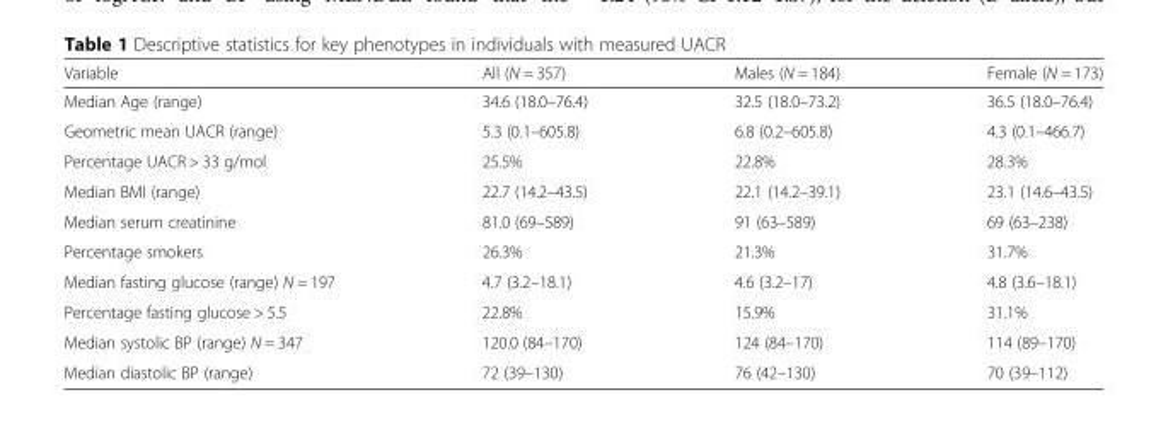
<table><thead><tr><td>Variable</td><td>All (N = 357)</td><td>Males (N = 184)</td><td>Female (N = 173)</td></tr></thead><tbody><tr><td>Median Age (range)</td><td>34.6 (18.0–76.4)</td><td>32.5 (18.0–73.2)</td><td>36.5 (18.0–76.4)</td></tr><tr><td>Geometric mean UACR (range)</td><td>5.3 (0.1–605.8)</td><td>6.8 (0.2–605.8)</td><td>4.3 (0.1–466.7)</td></tr><tr><td>Percentage UACR &gt; 33 g/mol</td><td>25.5%</td><td>22.8%</td><td>28.3%</td></tr><tr><td>Median BMI (range)</td><td>22.7 (14.2–43.5)</td><td>22.1 (14.2–39.1)</td><td>23.1 (14.6–43.5)</td></tr><tr><td>Median serum creatinine</td><td>81.0 (69–589)</td><td>91 (63–589)</td><td>69 (63–238)</td></tr><tr><td>Percentage smokers</td><td>26.3%</td><td>21.3%</td><td>31.7%</td></tr><tr><td>Median fasting glucose (range) N = 197</td><td>4.7 (3.2–18.1)</td><td>4.6 (3.2–17)</td><td>4.8 (3.6–18.1)</td></tr><tr><td>Percentage fasting glucose &gt; 5.5</td><td>22.8%</td><td>15.9%</td><td>31.1%</td></tr><tr><td>Median systolic BP (range) N = 347</td><td>120.0 (84–170)</td><td>124 (84–170)</td><td>114 (89–170)</td></tr><tr><td>Median diastolic BP (range)</td><td>72 (39–130)</td><td>76 (42–130)</td><td>70 (39–112)</td></tr></tbody></table>